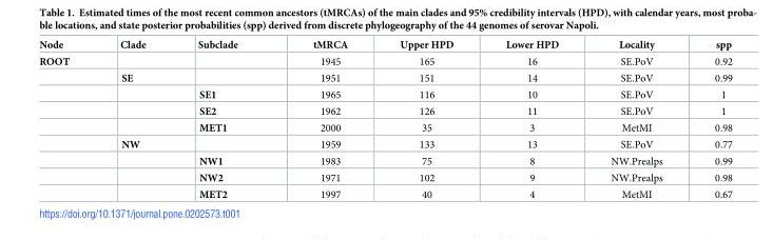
<table><thead><tr><td>Node</td><td>Clade</td><td>Subclade</td><td>tMRCA</td><td>Upper HPD</td><td>Lower HPD</td><td>Locality</td><td>spp</td></tr></thead><tbody><tr><td rowspan="9">ROOT</td><td></td><td></td><td>1945</td><td>165</td><td>16</td><td>SE.PoV</td><td>0.92</td></tr><tr><td>SE</td><td></td><td>1951</td><td>151</td><td>14</td><td>SE.PoV</td><td>0.99</td></tr><tr><td></td><td>SE1</td><td>1965</td><td>116</td><td>10</td><td>SE.PoV</td><td>1</td></tr><tr><td></td><td>SE2</td><td>1962</td><td>126</td><td>11</td><td>SE.PoV</td><td>1</td></tr><tr><td></td><td>MET1</td><td>2000</td><td>35</td><td>3</td><td>MetMI</td><td>0.98</td></tr><tr><td>NW</td><td></td><td>1959</td><td>133</td><td>13</td><td>SE.PoV</td><td>0.77</td></tr><tr><td></td><td>NW1</td><td>1983</td><td>75</td><td>8</td><td>NW.Prealps</td><td>0.99</td></tr><tr><td></td><td>NW2</td><td>1971</td><td>102</td><td>9</td><td>NW.Prealps</td><td>0.98</td></tr><tr><td></td><td>MET2</td><td>1997</td><td>40</td><td>4</td><td>MetMI</td><td>0.67</td></tr></tbody></table>